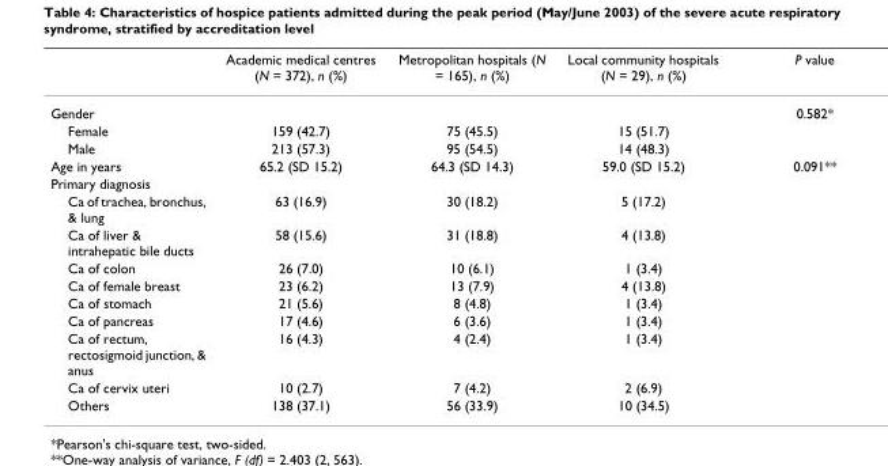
<table><thead><tr><td></td><td>Academic medical centres (N = 372), n (%)</td><td>Metropolitan hospitals (N = 165), n (%)</td><td>Local community hospitals (N = 29), n (%)</td><td>P value</td></tr></thead><tbody><tr><td>Gender</td><td></td><td></td><td></td><td>0.582*</td></tr><tr><td>Female</td><td>159 (42.7)</td><td>75 (45.5)</td><td>15 (51.7)</td><td></td></tr><tr><td>Male</td><td>213 (57.3)</td><td>95 (54.5)</td><td>14 (48.3)</td><td></td></tr><tr><td>Age in years</td><td>65.2 (SD 15.2)</td><td>64.3 (SD 14.3)</td><td>59.0 (SD 15.2)</td><td>0.091**</td></tr><tr><td colspan="5">Primary diagnosis</td></tr><tr><td>Ca of trachea, bronchus, &amp; lung</td><td>63 (16.9)</td><td>30 (18.2)</td><td>5 (17.2)</td><td></td></tr><tr><td>Ca of liver &amp; intrahepatic bile ducts</td><td>58 (15.6)</td><td>31 (18.8)</td><td>4 (13.8)</td><td></td></tr><tr><td>Ca of colon</td><td>26 (7.0)</td><td>10 (6.1)</td><td>1 (3.4)</td><td></td></tr><tr><td>Ca of female breast</td><td>23 (6.2)</td><td>13 (7.9)</td><td>4 (13.8)</td><td></td></tr><tr><td>Ca of stomach</td><td>21 (5.6)</td><td>8 (4.8)</td><td>1 (3.4)</td><td></td></tr><tr><td>Ca of pancreas</td><td>17 (4.6)</td><td>6 (3.6)</td><td>1 (3.4)</td><td></td></tr><tr><td>Ca of rectum, rectosigmoid junction, &amp; anus</td><td>16 (4.3)</td><td>4 (2.4)</td><td>1 (3.4)</td><td></td></tr><tr><td>Ca of cervix uteri</td><td>10 (2.7)</td><td>7 (4.2)</td><td>2 (6.9)</td><td></td></tr><tr><td>Others</td><td>138 (37.1)</td><td>56 (33.9)</td><td>10 (34.5)</td><td></td></tr></tbody></table>